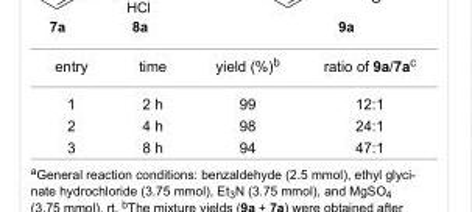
<table><tbody><tr><td>entry</td><td>time</td><td>yield (%)<sup>b</sup></td><td>ratio of 9a/7a<sup>c</sup></td></tr><tr><td>1</td><td>2 h</td><td>99</td><td>12:1</td></tr><tr><td>2</td><td>4 h</td><td>98</td><td>24:1</td></tr><tr><td>3</td><td>8 h</td><td>94</td><td>47:1</td></tr></tbody></table>